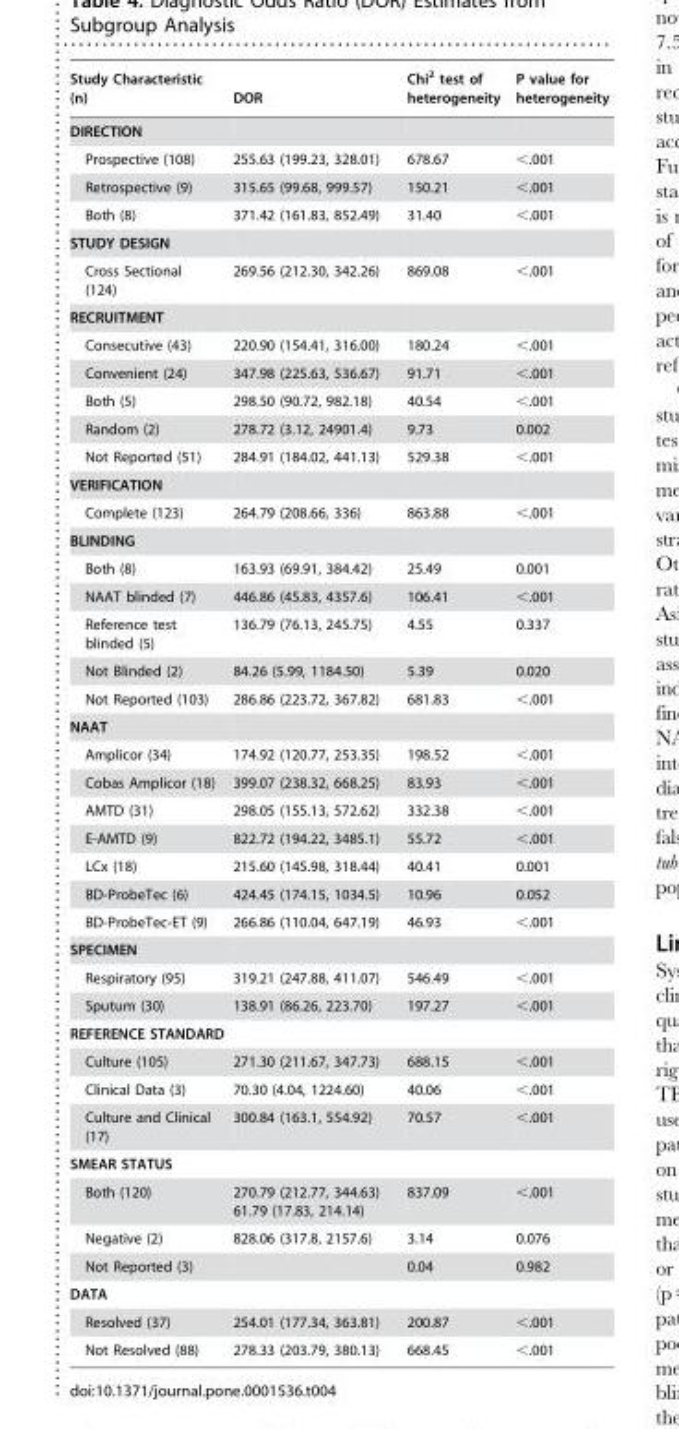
<table><thead><tr><td>Study Characteristic (n)</td><td>DOR</td><td>Chi<sup>2</sup> test of heterogeneity</td><td>P value for heterogeneity</td></tr></thead><tbody><tr><td colspan="4">DIRECTION</td></tr><tr><td>Prospective (108)</td><td>255.63 (199.23, 328.01)</td><td>678.67</td><td>&lt;.001</td></tr><tr><td>Retrospective (9)</td><td>315.65 (99.68, 999.57)</td><td>150.21</td><td>&lt;.001</td></tr><tr><td>Both (8)</td><td>371.42 (161.83, 852.49)</td><td>31.40</td><td>&lt;.001</td></tr><tr><td colspan="4">STUDY DESIGN</td></tr><tr><td>Cross Sectional (124)</td><td>269.56 (212.30, 342.26)</td><td>869.08</td><td>&lt;.001</td></tr><tr><td colspan="4">RECRUITMENT</td></tr><tr><td>Consecutive (43)</td><td>220.90 (154.41, 316.00)</td><td>180.24</td><td>&lt;.001</td></tr><tr><td>Convenient (24)</td><td>347.98 (225.63, 536.67)</td><td>91.71</td><td>&lt;.001</td></tr><tr><td>Both (5)</td><td>298.50 (90.72, 982.18)</td><td>40.54</td><td>&lt;.001</td></tr><tr><td>Random (2)</td><td>278.72 (3.12, 24901.4)</td><td>9.73</td><td>0.002</td></tr><tr><td>Not Reported (51)</td><td>284.91 (184.02, 441.13)</td><td>529.38</td><td>&lt;.001</td></tr><tr><td colspan="4">VERIFICATION</td></tr><tr><td>Complete (123)</td><td>264.79 (208.66, 336)</td><td>863.88</td><td>&lt;.001</td></tr><tr><td colspan="4">BLINDING</td></tr><tr><td>Both (8)</td><td>163.93 (69.91, 384.42)</td><td>25.49</td><td>0.001</td></tr><tr><td>NAAT blinded (7)</td><td>446.86 (45.83, 4357.6)</td><td>106.41</td><td>&lt;.001</td></tr><tr><td>Reference test blinded (5)</td><td>136.79 (76.13, 245.75)</td><td>4.55</td><td>0.337</td></tr><tr><td>Not Blinded (2)</td><td>84.26 (5.99, 1184.50)</td><td>5.39</td><td>0.020</td></tr><tr><td>Not Reported (103)</td><td>286.86 (223.72, 367.82)</td><td>681.83</td><td>&lt;.001</td></tr><tr><td colspan="4">NAAT</td></tr><tr><td>Amplicor (34)</td><td>174.92 (120.77, 253.35)</td><td>198.52</td><td>&lt;.001</td></tr><tr><td>Cobas Amplicor (18)</td><td>399.07 (238.32, 668.25)</td><td>83.93</td><td>&lt;.001</td></tr><tr><td>AMTD (31)</td><td>298.05 (155.13, 572.62)</td><td>332.38</td><td>&lt;.001</td></tr><tr><td>E-AMTD (9)</td><td>822.72 (194.22, 3485.1)</td><td>55.72</td><td>&lt;.001</td></tr><tr><td>LCx (18)</td><td>215.60 (145.98, 318.44)</td><td>40.41</td><td>0.001</td></tr><tr><td>BD-ProbeTec (6)</td><td>424.45 (174.15, 1034.5)</td><td>10.96</td><td>0.052</td></tr><tr><td>BD-ProbeTec-ET (9)</td><td>266.86 (110.04, 647.19)</td><td>46.93</td><td>&lt;.001</td></tr><tr><td colspan="4">SPECIMEN</td></tr><tr><td>Respiratory (95)</td><td>319.21 (247.88, 411.07)</td><td>546.49</td><td>&lt;.001</td></tr><tr><td>Sputum (30)</td><td>138.91 (86.26, 223.70)</td><td>197.27</td><td>&lt;.001</td></tr><tr><td colspan="4">REFERENCE STANDARD</td></tr><tr><td>Culture (105)</td><td>271.30 (211.67, 347.73)</td><td>688.15</td><td>&lt;.001</td></tr><tr><td>Clinical Data (3)</td><td>70.30 (4.04, 1224.60)</td><td>40.06</td><td>&lt;.001</td></tr><tr><td>Culture and Clinical (17)</td><td>300.84 (163.1, 554.92)</td><td>70.57</td><td>&lt;.001</td></tr><tr><td colspan="4">SMEAR STATUS</td></tr><tr><td>Both (120)</td><td>270.79 (212.77, 344.63) 61.79 (17.83, 214.14)</td><td>837.09</td><td>&lt;.001</td></tr><tr><td>Negative (2)</td><td>828.06 (317.8, 2157.6)</td><td>3.14</td><td>0.076</td></tr><tr><td>Not Reported (3)</td><td></td><td>0.04</td><td>0.982</td></tr><tr><td colspan="4">DATA</td></tr><tr><td>Resolved (37)</td><td>254.01 (177.34, 363.81)</td><td>200.87</td><td>&lt;.001</td></tr><tr><td>Not Resolved (88)</td><td>278.33 (203.79, 380.13)</td><td>668.45</td><td>&lt;.001</td></tr></tbody></table>